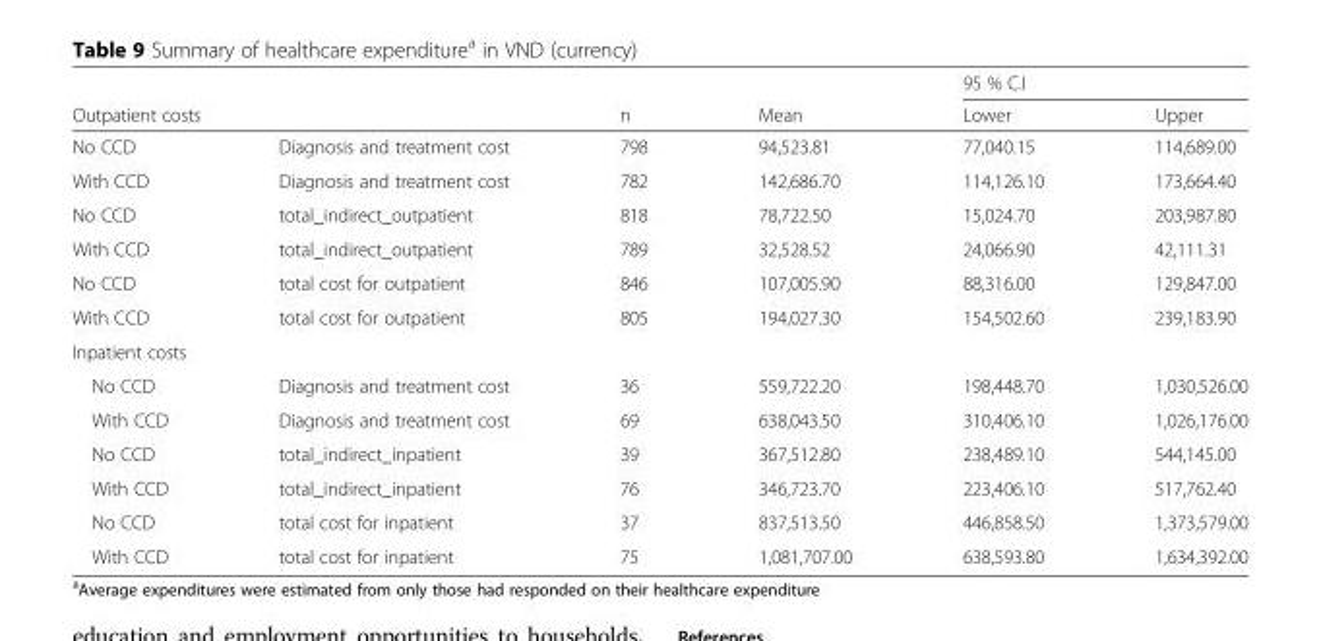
<table><thead><tr><td></td><td></td><td rowspan="2">n</td><td rowspan="2">Mean</td><td colspan="2">95 % C.I</td></tr><tr><td colspan="2">Outpatient costs</td><td>Lower</td><td>Upper</td></tr></thead><tbody><tr><td>No CCD</td><td>Diagnosis and treatment cost</td><td>798</td><td>94,523.81</td><td>77,040.15</td><td>114,689.00</td></tr><tr><td>With CCD</td><td>Diagnosis and treatment cost</td><td>782</td><td>142,686.70</td><td>114,126.10</td><td>173,664.40</td></tr><tr><td>No CCD</td><td>total_indirect_outpatient</td><td>818</td><td>78,722.50</td><td>15,024.70</td><td>203,987.80</td></tr><tr><td>With CCD</td><td>total_indirect_outpatient</td><td>789</td><td>32,528.52</td><td>24,066.90</td><td>42,111.31</td></tr><tr><td>No CCD</td><td>total cost for outpatient</td><td>846</td><td>107,005.90</td><td>88,316.00</td><td>129,847.00</td></tr><tr><td>With CCD</td><td>total cost for outpatient</td><td>805</td><td>194,027.30</td><td>154,502.60</td><td>239,183.90</td></tr><tr><td colspan="6">Inpatient costs</td></tr><tr><td>No CCD</td><td>Diagnosis and treatment cost</td><td>36</td><td>559,722.20</td><td>198,448.70</td><td>1,030,526.00</td></tr><tr><td>With CCD</td><td>Diagnosis and treatment cost</td><td>69</td><td>638,043.50</td><td>310,406.10</td><td>1,026,176.00</td></tr><tr><td>No CCD</td><td>total_indirect_inpatient</td><td>39</td><td>367,512.80</td><td>238,489.10</td><td>544,145.00</td></tr><tr><td>With CCD</td><td>total_indirect_inpatient</td><td>76</td><td>346,723.70</td><td>223,406.10</td><td>517,762.40</td></tr><tr><td>No CCD</td><td>total cost for inpatient</td><td>37</td><td>837,513.50</td><td>446,858.50</td><td>1,373,579.00</td></tr><tr><td>With CCD</td><td>total cost for inpatient</td><td>75</td><td>1,081,707.00</td><td>638,593.80</td><td>1,634,392.00</td></tr></tbody></table>